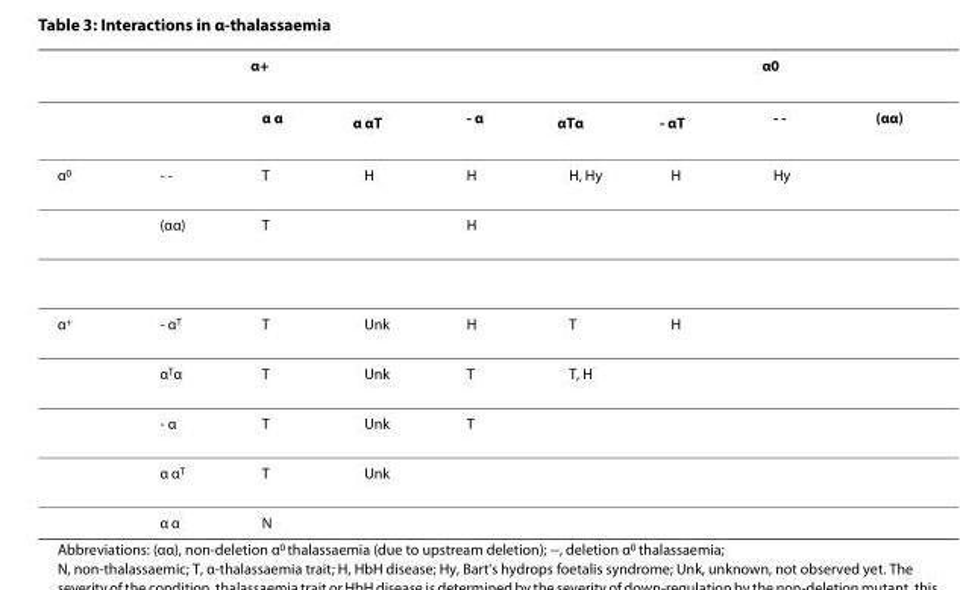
<table><thead><tr><td rowspan="2"></td><td rowspan="2"></td><td colspan="5">α+</td><td colspan="2">α0</td></tr><tr><td>α α</td><td>α αT</td><td>- α</td><td>αTα</td><td>- αT</td><td>- -</td><td>(αα)</td></tr></thead><tbody><tr><td rowspan="2">α0</td><td>- -</td><td>T</td><td>H</td><td>H</td><td>H, Hy</td><td>H</td><td>Hy</td><td></td></tr><tr><td>(αα)</td><td>T</td><td></td><td>H</td><td></td><td></td><td></td><td></td></tr><tr><td rowspan="5">α+</td><td>- αT</td><td>T</td><td>Unk</td><td>H</td><td>T</td><td>H</td><td></td><td></td></tr><tr><td>αTα</td><td>T</td><td>Unk</td><td>T</td><td>T, H</td><td></td><td></td><td></td></tr><tr><td>- α</td><td>T</td><td>Unk</td><td>T</td><td></td><td></td><td></td><td></td></tr><tr><td>α αT</td><td>T</td><td>Unk</td><td></td><td></td><td></td><td></td><td></td></tr><tr><td>α α</td><td>N</td><td></td><td></td><td></td><td></td><td></td><td></td></tr></tbody></table>